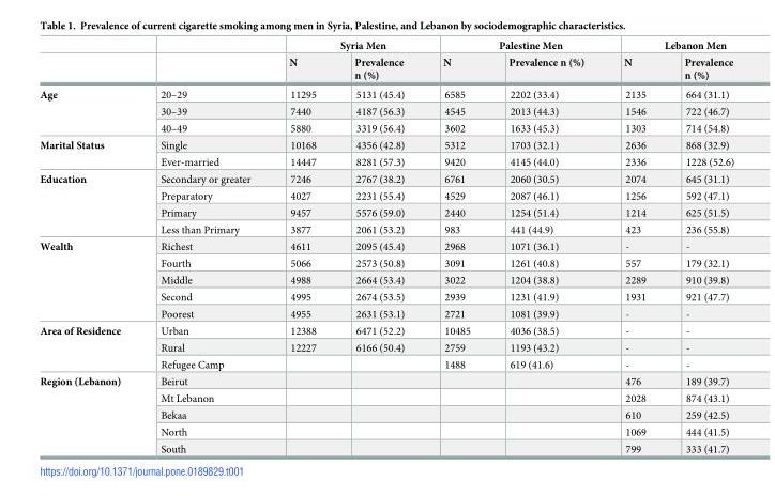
<table><thead><tr><td rowspan="2"></td><td rowspan="2"></td><td colspan="2">Syria Men</td><td colspan="2">Palestine Men</td><td colspan="2">Lebanon Men</td></tr><tr><td>N</td><td>Prevalence n (%)</td><td>N</td><td>Prevalence n (%)</td><td>N</td><td>Prevalence n (%)</td></tr></thead><tbody><tr><td rowspan="3">Age</td><td>20–29</td><td>11295</td><td>5131 (45.4)</td><td>6585</td><td>2202 (33.4)</td><td>2135</td><td>664 (31.1)</td></tr><tr><td>30–39</td><td>7440</td><td>4187 (56.3)</td><td>4545</td><td>2013 (44.3)</td><td>1546</td><td>722 (46.7)</td></tr><tr><td>40–49</td><td>5880</td><td>3319 (56.4)</td><td>3602</td><td>1633 (45.3)</td><td>1303</td><td>714 (54.8)</td></tr><tr><td rowspan="2">Marital Status</td><td>Single</td><td>10168</td><td>4356 (42.8)</td><td>5312</td><td>1703 (32.1)</td><td>2636</td><td>868 (32.9)</td></tr><tr><td>Ever-married</td><td>14447</td><td>8281 (57.3)</td><td>9420</td><td>4145 (44.0)</td><td>2336</td><td>1228 (52.6)</td></tr><tr><td rowspan="4">Education</td><td>Secondary or greater</td><td>7246</td><td>2767 (38.2)</td><td>6761</td><td>2060 (30.5)</td><td>2074</td><td>645 (31.1)</td></tr><tr><td>Preparatory</td><td>4027</td><td>2231 (55.4)</td><td>4529</td><td>2087 (46.1)</td><td>1256</td><td>592 (47.1)</td></tr><tr><td>Primary</td><td>9457</td><td>5576 (59.0)</td><td>2440</td><td>1254 (51.4)</td><td>1214</td><td>625 (51.5)</td></tr><tr><td>Less than Primary</td><td>3877</td><td>2061 (53.2)</td><td>983</td><td>441 (44.9)</td><td>423</td><td>236 (55.8)</td></tr><tr><td rowspan="5">Wealth</td><td>Richest</td><td>4611</td><td>2095 (45.4)</td><td>2968</td><td>1071 (36.1)</td><td>-</td><td>-</td></tr><tr><td>Fourth</td><td>5066</td><td>2573 (50.8)</td><td>3091</td><td>1261 (40.8)</td><td>557</td><td>179 (32.1)</td></tr><tr><td>Middle</td><td>4988</td><td>2664 (53.4)</td><td>3022</td><td>1204 (38.8)</td><td>2289</td><td>910 (39.8)</td></tr><tr><td>Second</td><td>4995</td><td>2674 (53.5)</td><td>2939</td><td>1231 (41.9)</td><td>1931</td><td>921 (47.7)</td></tr><tr><td>Poorest</td><td>4955</td><td>2631 (53.1)</td><td>2721</td><td>1081 (39.9)</td><td>-</td><td>-</td></tr><tr><td rowspan="3">Area of Residence</td><td>Urban</td><td>12388</td><td>6471 (52.2)</td><td>10485</td><td>4036 (38.5)</td><td>-</td><td>-</td></tr><tr><td>Rural</td><td>12227</td><td>6166 (50.4)</td><td>2759</td><td>1193 (43.2)</td><td>-</td><td>-</td></tr><tr><td>Refugee Camp</td><td></td><td></td><td>1488</td><td>619 (41.6)</td><td>-</td><td>-</td></tr><tr><td rowspan="5">Region (Lebanon)</td><td>Beirut</td><td></td><td></td><td></td><td></td><td>476</td><td>189 (39.7)</td></tr><tr><td>Mt Lebanon</td><td></td><td></td><td></td><td></td><td>2028</td><td>874 (43.1)</td></tr><tr><td>Bekaa</td><td></td><td></td><td></td><td></td><td>610</td><td>259 (42.5)</td></tr><tr><td>North</td><td></td><td></td><td></td><td></td><td>1069</td><td>444 (41.5)</td></tr><tr><td>South</td><td></td><td></td><td></td><td></td><td>799</td><td>333 (41.7)</td></tr></tbody></table>